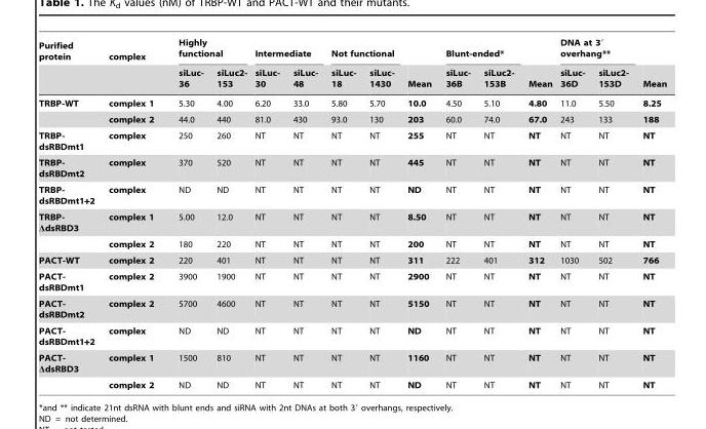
<table><thead><tr><td rowspan="2">Purified protein</td><td rowspan="2">complex</td><td colspan="2">Highly functional</td><td colspan="2">Intermediate</td><td colspan="2">Not functional</td><td rowspan="2">Mean</td><td colspan="2">Blunt-ended*</td><td rowspan="2">Mean</td><td colspan="2">DNA at 3′ overhang**</td><td rowspan="2">Mean</td></tr><tr><td>siLuc- 36</td><td>siLuc2- 153</td><td>siLuc- 30</td><td>siLuc- 48</td><td>siLuc- 18</td><td>siLuc- 1430</td><td>siLuc- 36B</td><td>siLuc2- 153B</td><td>siLuc- 36D</td><td>siLuc2- 153D</td></tr></thead><tbody><tr><td rowspan="2">TRBP-WT</td><td>complex 1</td><td>5.30</td><td>4.00</td><td>6.20</td><td>33.0</td><td>5.80</td><td>5.70</td><td>10.0</td><td>4.50</td><td>5.10</td><td>4.80</td><td>11.0</td><td>5.50</td><td>8.25</td></tr><tr><td>complex 2</td><td>44.0</td><td>440</td><td>81.0</td><td>430</td><td>93.0</td><td>130</td><td>203</td><td>60.0</td><td>74.0</td><td>67.0</td><td>243</td><td>133</td><td>188</td></tr><tr><td>TRBP- dsRBDmt1</td><td>complex</td><td>250</td><td>260</td><td>NT</td><td>NT</td><td>NT</td><td>NT</td><td>255</td><td>NT</td><td>NT</td><td>NT</td><td>NT</td><td>NT</td><td>NT</td></tr><tr><td>TRBP- dsRBDmt2</td><td>complex</td><td>370</td><td>520</td><td>NT</td><td>NT</td><td>NT</td><td>NT</td><td>445</td><td>NT</td><td>NT</td><td>NT</td><td>NT</td><td>NT</td><td>NT</td></tr><tr><td>TRBP- dsRBDmt1+2</td><td>complex</td><td>ND</td><td>ND</td><td>NT</td><td>NT</td><td>NT</td><td>NT</td><td>ND</td><td>NT</td><td>NT</td><td>NT</td><td>NT</td><td>NT</td><td>NT</td></tr><tr><td rowspan="2">TRBP- ΔdsRBD3</td><td>complex 1</td><td>5.00</td><td>12.0</td><td>NT</td><td>NT</td><td>NT</td><td>NT</td><td>8.50</td><td>NT</td><td>NT</td><td>NT</td><td>NT</td><td>NT</td><td>NT</td></tr><tr><td>complex 2</td><td>180</td><td>220</td><td>NT</td><td>NT</td><td>NT</td><td>NT</td><td>200</td><td>NT</td><td>NT</td><td>NT</td><td>NT</td><td>NT</td><td>NT</td></tr><tr><td>PACT-WT</td><td>complex 2</td><td>220</td><td>401</td><td>NT</td><td>NT</td><td>NT</td><td>NT</td><td>311</td><td>222</td><td>401</td><td>312</td><td>1030</td><td>502</td><td>766</td></tr><tr><td>PACT- dsRBDmt1</td><td>complex 2</td><td>3900</td><td>1900</td><td>NT</td><td>NT</td><td>NT</td><td>NT</td><td>2900</td><td>NT</td><td>NT</td><td>NT</td><td>NT</td><td>NT</td><td>NT</td></tr><tr><td>PACT- dsRBDmt2</td><td>complex 2</td><td>5700</td><td>4600</td><td>NT</td><td>NT</td><td>NT</td><td>NT</td><td>5150</td><td>NT</td><td>NT</td><td>NT</td><td>NT</td><td>NT</td><td>NT</td></tr><tr><td>PACT- dsRBDmt1+2</td><td>complex</td><td>ND</td><td>ND</td><td>NT</td><td>NT</td><td>NT</td><td>NT</td><td>ND</td><td>NT</td><td>NT</td><td>NT</td><td>NT</td><td>NT</td><td>NT</td></tr><tr><td rowspan="2">PACT- ΔdsRBD3</td><td>complex 1</td><td>1500</td><td>810</td><td>NT</td><td>NT</td><td>NT</td><td>NT</td><td>1160</td><td>NT</td><td>NT</td><td>NT</td><td>NT</td><td>NT</td><td>NT</td></tr><tr><td>complex 2</td><td>ND</td><td>ND</td><td>NT</td><td>NT</td><td>NT</td><td>NT</td><td>ND</td><td>NT</td><td>NT</td><td>NT</td><td>NT</td><td>NT</td><td>NT</td></tr></tbody></table>